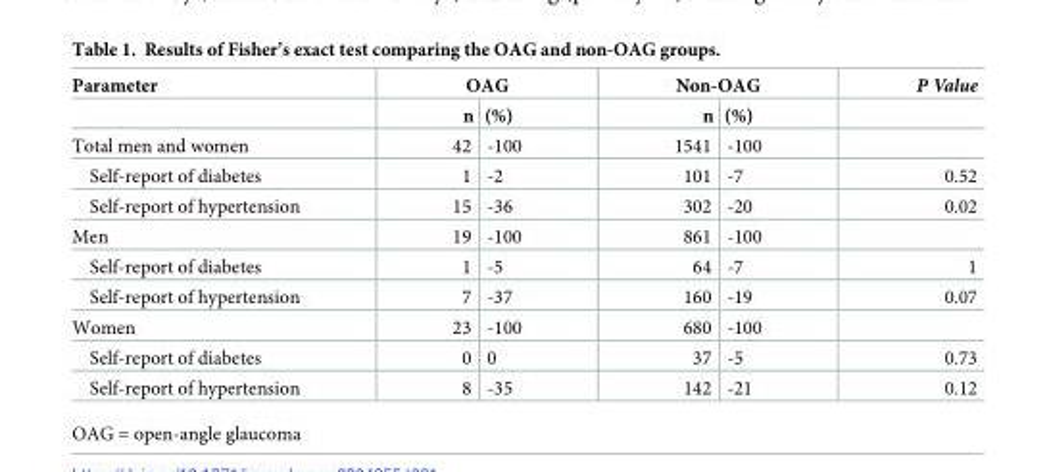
<table><thead><tr><td rowspan="2">Parameter</td><td colspan="2">OAG</td><td colspan="2">Non-OAG</td><td rowspan="2">P Value</td></tr><tr><td>n</td><td>(%)</td><td>n</td><td>(%)</td></tr></thead><tbody><tr><td>Total men and women</td><td>42</td><td>-100</td><td>1541</td><td>-100</td><td></td></tr><tr><td>Self-report of diabetes</td><td>1</td><td>-2</td><td>101</td><td>-7</td><td>0.52</td></tr><tr><td>Self-report of hypertension</td><td>15</td><td>-36</td><td>302</td><td>-20</td><td>0.02</td></tr><tr><td>Men</td><td>19</td><td>-100</td><td>861</td><td>-100</td><td></td></tr><tr><td>Self-report of diabetes</td><td>1</td><td>-5</td><td>64</td><td>-7</td><td>1</td></tr><tr><td>Self-report of hypertension</td><td>7</td><td>-37</td><td>160</td><td>-19</td><td>0.07</td></tr><tr><td>Women</td><td>23</td><td>-100</td><td>680</td><td>-100</td><td></td></tr><tr><td>Self-report of diabetes</td><td>0</td><td>0</td><td>37</td><td>-5</td><td>0.73</td></tr><tr><td>Self-report of hypertension</td><td>8</td><td>-35</td><td>142</td><td>-21</td><td>0.12</td></tr></tbody></table>